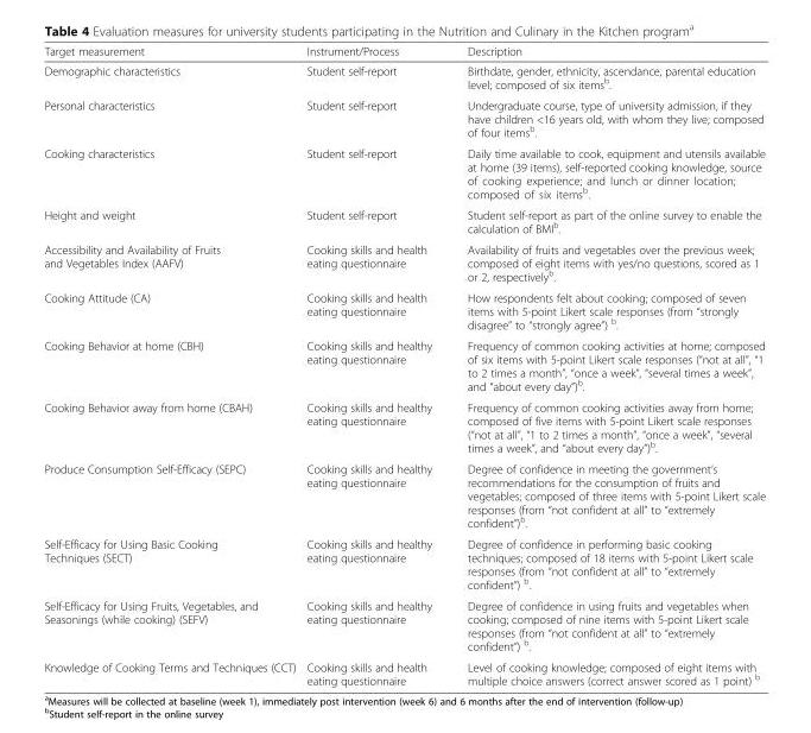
<table><thead><tr><td>Target measurement</td><td>Instrument/Process</td><td>Description</td></tr></thead><tbody><tr><td>Demographic characteristics</td><td>Student self-report</td><td>Birthdate, gender, ethnicity, ascendance, parental education level; composed of six items<sup>b</sup>.</td></tr><tr><td>Personal characteristics</td><td>Student self-report</td><td>Undergraduate course, type of university admission, if they have children &lt;16 years old, with whom they live; composed of four items<sup>b</sup>.</td></tr><tr><td>Cooking characteristics</td><td>Student self-report</td><td>Daily time available to cook, equipment and utensils available at home (39 items), self-reported cooking knowledge, source of cooking experience; and lunch or dinner location; composed of six items<sup>b</sup>.</td></tr><tr><td>Height and weight</td><td>Student self-report</td><td>Student self-report as part of the online survey to enable the calculation of BMI<sup>b</sup>.</td></tr><tr><td>Accessibility and Availability of Fruits and Vegetables Index (AAFV)</td><td>Cooking skills and health eating questionnaire</td><td>Availability of fruits and vegetables over the previous week; composed of eight items with yes/no questions, scored as 1 or 2, respectively<sup>b</sup>.</td></tr><tr><td>Cooking Attitude (CA)</td><td>Cooking skills and health eating questionnaire</td><td>How respondents felt about cooking; composed of seven items with 5-point Likert scale responses (from “strongly disagree” to “strongly agree”) <sup>b</sup>.</td></tr><tr><td>Cooking Behavior at home (CBH)</td><td>Cooking skills and healthy eating questionnaire</td><td>Frequency of common cooking activities at home; composed of six items with 5-point Likert scale responses (“not at all”, “1 to 2 times a month”, “once a week”, “several times a week”, and “about every day”)<sup>b</sup>.</td></tr><tr><td>Cooking Behavior away from home (CBAH)</td><td>Cooking skills and healthy eating questionnaire</td><td>Frequency of common cooking activities away from home; composed of five items with 5-point Likert scale responses (“not at all”, “1 to 2 times a month”, “once a week”, “several times a week”, and “about every day”)<sup>b</sup>.</td></tr><tr><td>Produce Consumption Self-Efficacy (SEPC)</td><td>Cooking skills and healthy eating questionnaire</td><td>Degree of confidence in meeting the government’s recommendations for the consumption of fruits and vegetables; composed of three items with 5-point Likert scale responses (from “not confident at all” to “extremely confident”)<sup>b</sup>.</td></tr><tr><td>Self-Efficacy for Using Basic Cooking Techniques (SECT)</td><td>Cooking skills and healthy eating questionnaire</td><td>Degree of confidence in performing basic cooking techniques; composed of 18 items with 5-point Likert scale responses (from “not confident at all” to “extremely confident”) <sup>b</sup>.</td></tr><tr><td>Self-Efficacy for Using Fruits, Vegetables, and Seasonings (while cooking) (SEFV)</td><td>Cooking skills and healthy eating questionnaire</td><td>Degree of confidence in using fruits and vegetables when cooking; composed of nine items with 5-point Likert scale responses (from “not confident at all” to “extremely confident”) <sup>b</sup>.</td></tr><tr><td>Knowledge of Cooking Terms and Techniques (CCT)</td><td>Cooking skills and health eating questionnaire</td><td>Level of cooking knowledge; composed of eight items with multiple choice answers (correct answer scored as 1 point) <sup>b</sup></td></tr></tbody></table>